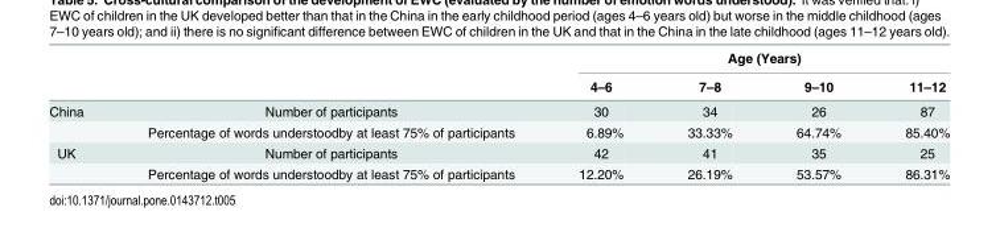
<table><thead><tr><td rowspan="2"></td><td rowspan="2"></td><td colspan="4">Age (Years)</td></tr><tr><td>4–6</td><td>7–8</td><td>9–10</td><td>11–12</td></tr></thead><tbody><tr><td rowspan="2">China</td><td>Number of participants</td><td>30</td><td>34</td><td>26</td><td>87</td></tr><tr><td>Percentage of words understoodby at least 75% of participants</td><td>6.89%</td><td>33.33%</td><td>64.74%</td><td>85.40%</td></tr><tr><td rowspan="2">UK</td><td>Number of participants</td><td>42</td><td>41</td><td>35</td><td>25</td></tr><tr><td>Percentage of words understoodby at least 75% of participants</td><td>12.20%</td><td>26.19%</td><td>53.57%</td><td>86.31%</td></tr></tbody></table>